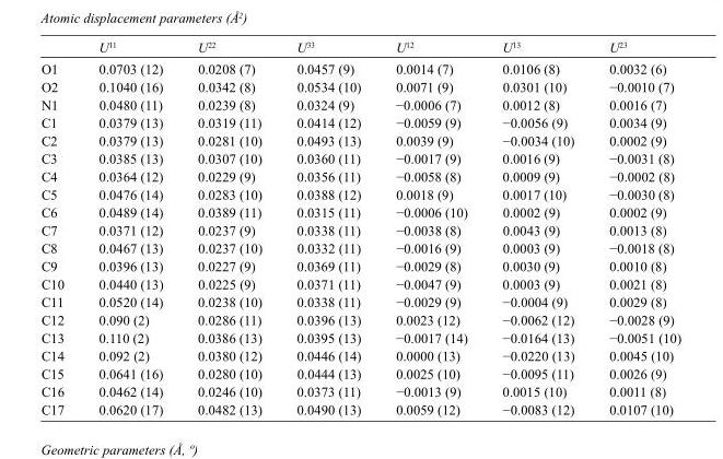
<table><thead><tr><td></td><td>U<sup>11</sup></td><td>U<sup>22</sup></td><td>U<sup>33</sup></td><td>U<sup>12</sup></td><td>U<sup>13</sup></td><td>U<sup>23</sup></td></tr></thead><tbody><tr><td>O1</td><td>0.0703 (12)</td><td>0.0208 (7)</td><td>0.0457 (9)</td><td>0.0014 (7)</td><td>0.0106 (8)</td><td>0.0032 (6)</td></tr><tr><td>O2</td><td>0.1040 (16)</td><td>0.0342 (8)</td><td>0.0534 (10)</td><td>0.0071 (9)</td><td>0.0301 (10)</td><td>−0.0010 (7)</td></tr><tr><td>N1</td><td>0.0480 (11)</td><td>0.0239 (8)</td><td>0.0324 (9)</td><td>−0.0006 (7)</td><td>0.0012 (8)</td><td>0.0016 (7)</td></tr><tr><td>C1</td><td>0.0379 (13)</td><td>0.0319 (11)</td><td>0.0414 (12)</td><td>−0.0059 (9)</td><td>−0.0056 (9)</td><td>0.0034 (9)</td></tr><tr><td>C2</td><td>0.0379 (13)</td><td>0.0281 (10)</td><td>0.0493 (13)</td><td>0.0039 (9)</td><td>−0.0034 (10)</td><td>0.0002 (9)</td></tr><tr><td>C3</td><td>0.0385 (13)</td><td>0.0307 (10)</td><td>0.0360 (11)</td><td>−0.0017 (9)</td><td>0.0016 (9)</td><td>−0.0031 (8)</td></tr><tr><td>C4</td><td>0.0364 (12)</td><td>0.0229 (9)</td><td>0.0356 (11)</td><td>−0.0058 (8)</td><td>0.0009 (9)</td><td>−0.0002 (8)</td></tr><tr><td>C5</td><td>0.0476 (14)</td><td>0.0283 (10)</td><td>0.0388 (12)</td><td>0.0018 (9)</td><td>0.0017 (10)</td><td>−0.0030 (8)</td></tr><tr><td>C6</td><td>0.0489 (14)</td><td>0.0389 (11)</td><td>0.0315 (11)</td><td>−0.0006 (10)</td><td>0.0002 (9)</td><td>0.0002 (9)</td></tr><tr><td>C7</td><td>0.0371 (12)</td><td>0.0237 (9)</td><td>0.0338 (11)</td><td>−0.0038 (8)</td><td>0.0043 (9)</td><td>0.0013 (8)</td></tr><tr><td>C8</td><td>0.0467 (13)</td><td>0.0237 (10)</td><td>0.0332 (11)</td><td>−0.0016 (9)</td><td>0.0003 (9)</td><td>−0.0018 (8)</td></tr><tr><td>C9</td><td>0.0396 (13)</td><td>0.0227 (9)</td><td>0.0369 (11)</td><td>−0.0029 (8)</td><td>0.0030 (9)</td><td>0.0010 (8)</td></tr><tr><td>C10</td><td>0.0440 (13)</td><td>0.0225 (9)</td><td>0.0371 (11)</td><td>−0.0047 (9)</td><td>0.0003 (9)</td><td>0.0021 (8)</td></tr><tr><td>C11</td><td>0.0520 (14)</td><td>0.0238 (10)</td><td>0.0338 (11)</td><td>−0.0029 (9)</td><td>−0.0004 (9)</td><td>0.0029 (8)</td></tr><tr><td>C12</td><td>0.090 (2)</td><td>0.0286 (11)</td><td>0.0396 (13)</td><td>0.0023 (12)</td><td>−0.0062 (12)</td><td>−0.0028 (9)</td></tr><tr><td>C13</td><td>0.110 (2)</td><td>0.0386 (13)</td><td>0.0395 (13)</td><td>−0.0017 (14)</td><td>−0.0164 (13)</td><td>−0.0051 (10)</td></tr><tr><td>C14</td><td>0.092 (2)</td><td>0.0380 (12)</td><td>0.0446 (14)</td><td>0.0000 (13)</td><td>−0.0220 (13)</td><td>0.0045 (10)</td></tr><tr><td>C15</td><td>0.0641 (16)</td><td>0.0280 (10)</td><td>0.0444 (13)</td><td>0.0025 (10)</td><td>−0.0095 (11)</td><td>0.0026 (9)</td></tr><tr><td>C16</td><td>0.0462 (14)</td><td>0.0246 (10)</td><td>0.0373 (11)</td><td>−0.0013 (9)</td><td>0.0015 (10)</td><td>0.0011 (8)</td></tr><tr><td>C17</td><td>0.0620 (17)</td><td>0.0482 (13)</td><td>0.0490 (13)</td><td>0.0059 (12)</td><td>−0.0083 (12)</td><td>0.0107 (10)</td></tr></tbody></table>